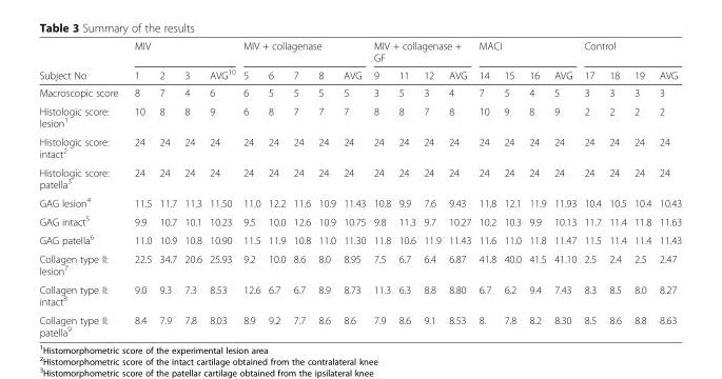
<table><thead><tr><td rowspan="2">Subject No</td><td colspan="4">MIV</td><td colspan="5">MIV + collagenase</td><td colspan="4">MIV + collagenase + GF</td><td colspan="4">MACI</td><td colspan="4">Control</td></tr><tr><td>1</td><td>2</td><td>3</td><td>AVG<sup>10</sup></td><td>5</td><td>6</td><td>7</td><td>8</td><td>AVG</td><td>9</td><td>11</td><td>12</td><td>AVG</td><td>14</td><td>15</td><td>16</td><td>AVG</td><td>17</td><td>18</td><td>19</td><td>AVG</td></tr></thead><tbody><tr><td>Macroscopic score</td><td>8</td><td>7</td><td>4</td><td>6</td><td>6</td><td>5</td><td>5</td><td>5</td><td>5</td><td>3</td><td>5</td><td>3</td><td>4</td><td>7</td><td>5</td><td>4</td><td>5</td><td>3</td><td>3</td><td>3</td><td>3</td></tr><tr><td>Histologic score: lesion<sup>1</sup></td><td>10</td><td>8</td><td>8</td><td>9</td><td>6</td><td>8</td><td>7</td><td>7</td><td>7</td><td>8</td><td>8</td><td>7</td><td>8</td><td>10</td><td>9</td><td>8</td><td>9</td><td>2</td><td>2</td><td>2</td><td>2</td></tr><tr><td>Histologic score: intact<sup>2</sup></td><td>24</td><td>24</td><td>24</td><td>24</td><td>24</td><td>24</td><td>24</td><td>24</td><td>24</td><td>24</td><td>24</td><td>24</td><td>24</td><td>24</td><td>24</td><td>24</td><td>24</td><td>24</td><td>24</td><td>24</td><td>24</td></tr><tr><td>Histologic score: patella<sup>3</sup></td><td>24</td><td>24</td><td>24</td><td>24</td><td>24</td><td>24</td><td>24</td><td>24</td><td>24</td><td>24</td><td>24</td><td>24</td><td>24</td><td>24</td><td>24</td><td>24</td><td>24</td><td>24</td><td>24</td><td>24</td><td>24</td></tr><tr><td>GAG lesion<sup>4</sup></td><td>11.5</td><td>11.7</td><td>11.3</td><td>11.50</td><td>11.0</td><td>12.2</td><td>11.6</td><td>10.9</td><td>11.43</td><td>10.8</td><td>9.9</td><td>7.6</td><td>9.43</td><td>11.8</td><td>12.1</td><td>11.9</td><td>11.93</td><td>10.4</td><td>10.5</td><td>10.4</td><td>10.43</td></tr><tr><td>GAG intact<sup>5</sup></td><td>9.9</td><td>10.7</td><td>10.1</td><td>10.23</td><td>9.5</td><td>10.0</td><td>12.6</td><td>10.9</td><td>10.75</td><td>9.8</td><td>11.3</td><td>9.7</td><td>10.27</td><td>10.2</td><td>10.3</td><td>9.9</td><td>10.13</td><td>11.7</td><td>11.4</td><td>11.8</td><td>11.63</td></tr><tr><td>GAG patella<sup>6</sup></td><td>11.0</td><td>10.9</td><td>10.8</td><td>10.90</td><td>11.5</td><td>11.9</td><td>10.8</td><td>11.0</td><td>11.30</td><td>11.8</td><td>10.6</td><td>11.9</td><td>11.43</td><td>11.6</td><td>11.0</td><td>11.8</td><td>11.47</td><td>11.5</td><td>11.4</td><td>11.4</td><td>11.43</td></tr><tr><td>Collagen type II: lesion<sup>7</sup></td><td>22.5</td><td>34.7</td><td>20.6</td><td>25.93</td><td>9.2</td><td>10.0</td><td>8.6</td><td>8.0</td><td>8.95</td><td>7.5</td><td>6.7</td><td>6.4</td><td>6.87</td><td>41.8</td><td>40.0</td><td>41.5</td><td>41.10</td><td>2.5</td><td>2.4</td><td>2.5</td><td>2.47</td></tr><tr><td>Collagen type II: intact<sup>8</sup></td><td>9.0</td><td>9.3</td><td>7.3</td><td>8.53</td><td>12.6</td><td>6.7</td><td>6.7</td><td>8.9</td><td>8.73</td><td>11.3</td><td>6.3</td><td>8.8</td><td>8.80</td><td>6.7</td><td>6.2</td><td>9.4</td><td>7.43</td><td>8.3</td><td>8.5</td><td>8.0</td><td>8.27</td></tr><tr><td>Collagen type II: patella<sup>9</sup></td><td>8.4</td><td>7.9</td><td>7.8</td><td>8.03</td><td>8.9</td><td>9.2</td><td>7.7</td><td>8.6</td><td>8.6</td><td>7.9</td><td>8.6</td><td>9.1</td><td>8.53</td><td>8.</td><td>7.8</td><td>8.2</td><td>8.30</td><td>8.5</td><td>8.6</td><td>8.8</td><td>8.63</td></tr></tbody></table>